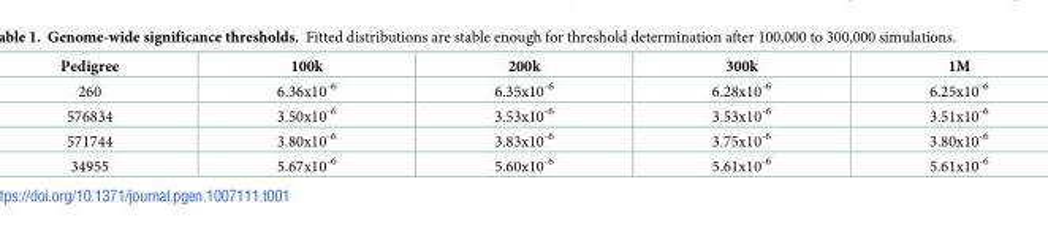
<table><thead><tr><td>Pedigree</td><td>100k</td><td>200k</td><td>300k</td><td>1M</td></tr></thead><tbody><tr><td>260</td><td>6.36x10<sup>-6</sup></td><td>6.35x10<sup>-6</sup></td><td>6.28x10<sup>-6</sup></td><td>6.25x10<sup>-6</sup></td></tr><tr><td>576834</td><td>3.50x10<sup>-6</sup></td><td>3.53x10<sup>-6</sup></td><td>3.53x10<sup>-6</sup></td><td>3.51x10<sup>-6</sup></td></tr><tr><td>571744</td><td>3.80x10<sup>-6</sup></td><td>3.83x10<sup>-6</sup></td><td>3.75x10<sup>-6</sup></td><td>3.80x10<sup>-6</sup></td></tr><tr><td>34955</td><td>5.67x10<sup>-6</sup></td><td>5.60x10<sup>-6</sup></td><td>5.61x10<sup>-6</sup></td><td>5.61x10<sup>-6</sup></td></tr></tbody></table>